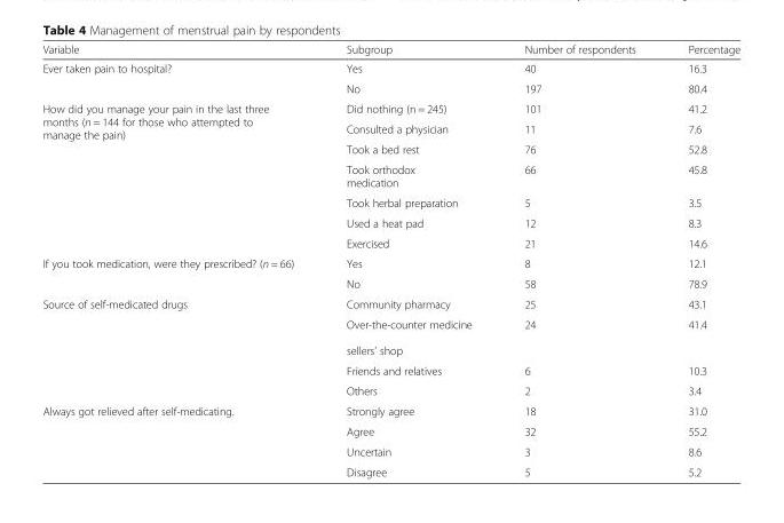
<table><thead><tr><td>Variable</td><td>Subgroup</td><td>Number of respondents</td><td>Percentage</td></tr></thead><tbody><tr><td rowspan="2">Ever taken pain to hospital?</td><td>Yes</td><td>40</td><td>16.3</td></tr><tr><td>No</td><td>197</td><td>80.4</td></tr><tr><td rowspan="7">How did you manage your pain in the last three months (n = 144 for those who attempted to manage the pain)</td><td>Did nothing (n = 245)</td><td>101</td><td>41.2</td></tr><tr><td>Consulted a physician</td><td>11</td><td>7.6</td></tr><tr><td>Took a bed rest</td><td>76</td><td>52.8</td></tr><tr><td>Took orthodox medication</td><td>66</td><td>45.8</td></tr><tr><td>Took herbal preparation</td><td>5</td><td>3.5</td></tr><tr><td>Used a heat pad</td><td>12</td><td>8.3</td></tr><tr><td>Exercised</td><td>21</td><td>14.6</td></tr><tr><td rowspan="2">If you took medication, were they prescribed? (n = 66)</td><td>Yes</td><td>8</td><td>12.1</td></tr><tr><td>No</td><td>58</td><td>78.9</td></tr><tr><td rowspan="4">Source of self-medicated drugs</td><td>Community pharmacy</td><td>25</td><td>43.1</td></tr><tr><td>Over-the-counter medicine sellers’ shop</td><td>24</td><td>41.4</td></tr><tr><td>Friends and relatives</td><td>6</td><td>10.3</td></tr><tr><td>Others</td><td>2</td><td>3.4</td></tr><tr><td rowspan="4">Always got relieved after self-medicating.</td><td>Strongly agree</td><td>18</td><td>31.0</td></tr><tr><td>Agree</td><td>32</td><td>55.2</td></tr><tr><td>Uncertain</td><td>3</td><td>8.6</td></tr><tr><td>Disagree</td><td>5</td><td>5.2</td></tr></tbody></table>